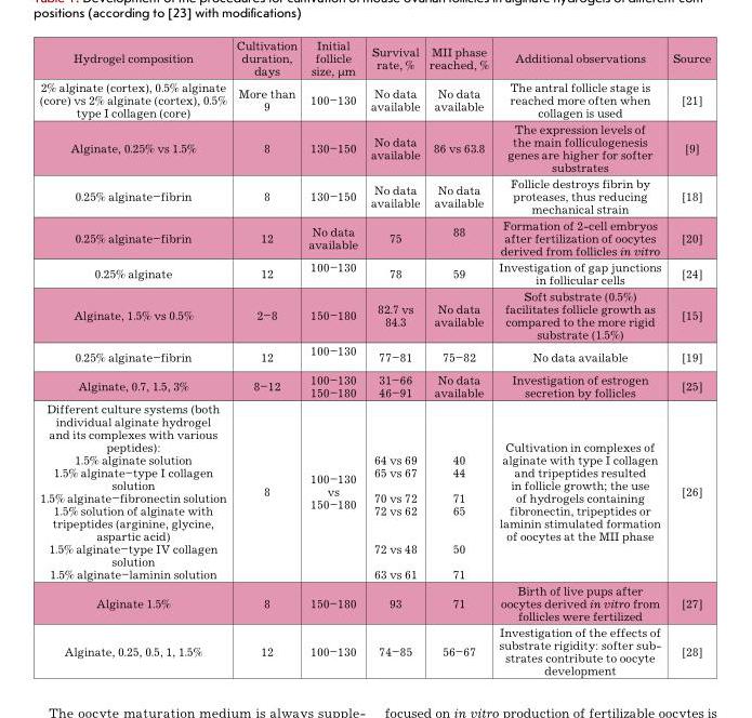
<table><thead><tr><td>Hydrogel composition</td><td>Cultivation duration, days</td><td>Initial follicle size, μm</td><td>Survival rate, %</td><td>MII phase reached, %</td><td>Additional observations</td><td>Source</td></tr></thead><tbody><tr><td>2% alginate (cortex), 0.5% alginate (core) vs 2% alginate (cortex), 0.5% type I collagen (core)</td><td>More than 9</td><td>100–130</td><td>No data available</td><td>No data available</td><td>The antral follicle stage is reached more often when collagen is used</td><td>[21]</td></tr><tr><td>Alginate, 0.25% vs 1.5%</td><td>8</td><td>130–150</td><td>No data available</td><td>86 vs 63.8</td><td>The expression levels of the main folliculogenesis genes are higher for softer substrates</td><td>[9]</td></tr><tr><td>0.25% alginate–fibrin</td><td>8</td><td>130–150</td><td>No data available</td><td>No data available</td><td>Follicle destroys fibrin by proteases, thus reducing mechanical strain</td><td>[18]</td></tr><tr><td>0.25% alginate–fibrin</td><td>12</td><td>No data available</td><td>75</td><td>88</td><td>Formation of 2-cell embryos after fertilization of oocytes derived from follicles in vitro</td><td>[20]</td></tr><tr><td>0.25% alginate</td><td>12</td><td>100–130</td><td>78</td><td>59</td><td>Investigation of gap junctions in follicular cells</td><td>[24]</td></tr><tr><td>Alginate, 1.5% vs 0.5%</td><td>2–8</td><td>150–180</td><td>82.7 vs 84.3</td><td>No data available</td><td>Soft substrate (0.5%) facilitates follicle growth as compared to the more rigid substrate (1.5%)</td><td>[15]</td></tr><tr><td>0.25% alginate–fibrin</td><td>12</td><td>100–130</td><td>77–81</td><td>75–82</td><td>No data available</td><td>[19]</td></tr><tr><td>Alginate, 0.7, 1.5, 3%</td><td>8–12</td><td>100–130 150–180</td><td>31–66 46–91</td><td>No data available</td><td>Investigation of estrogen secretion by follicles</td><td>[25]</td></tr><tr><td>Different culture systems (both individual alginate hydrogel and its complexes with various peptides): 1.5% alginate solution 1.5% alginate–type I collagen solution 1.5% alginate–fibronectin solution 1.5% solution of alginate with tripeptides (arginine, glycine, aspartic acid) 1.5% alginate–type IV collagen solution 1.5% alginate–laminin solution</td><td>8</td><td>100–130 vs 150–180</td><td>64 vs 69 65 vs 67 70 vs 72 72 vs 62 72 vs 48 63 vs 61</td><td>40 44 71 65 50 71</td><td>Cultivation in complexes of alginate with type I collagen and tripeptides resulted in follicle growth; the use of hydrogels containing fibronectin, tripeptides or laminin stimulated formation of oocytes at the MII phase</td><td>[26]</td></tr><tr><td>Alginate 1.5%</td><td>8</td><td>150–180</td><td>93</td><td>71</td><td>Birth of live pups after oocytes derived in vitro from follicles were fertilized</td><td>[27]</td></tr><tr><td>Alginate, 0.25, 0.5, 1, 1.5%</td><td>12</td><td>100–130</td><td>74–85</td><td>56–67</td><td>Investigation of the effects of substrate rigidity: softer sub- strates contribute to oocyte development</td><td>[28]</td></tr></tbody></table>